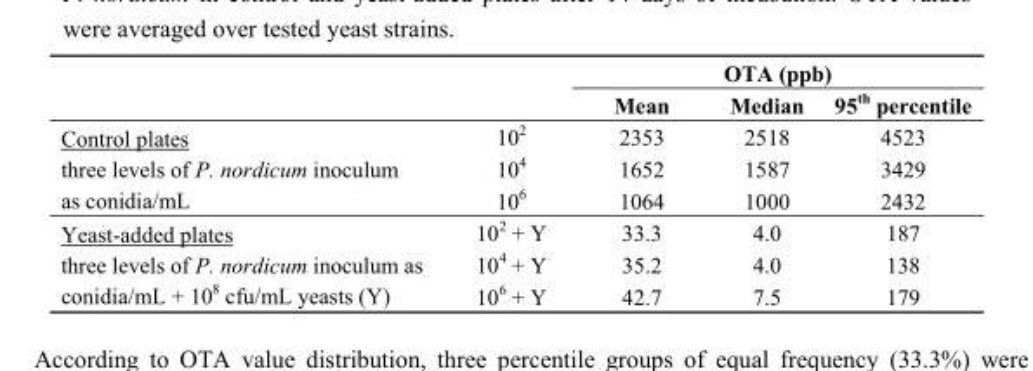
<table><thead><tr><td rowspan="2"></td><td rowspan="2"></td><td colspan="3">OTA (ppb)</td></tr><tr><td>Mean</td><td>Median</td><td>95<sup>th</sup> percentile</td></tr></thead><tbody><tr><td rowspan="3">Control plates three levels of P. nordicum inoculum as conidia/mL</td><td>10<sup>2</sup></td><td>2353</td><td>2518</td><td>4523</td></tr><tr><td>10<sup>4</sup></td><td>1652</td><td>1587</td><td>3429</td></tr><tr><td>10<sup>6</sup></td><td>1064</td><td>1000</td><td>2432</td></tr><tr><td rowspan="3">Yeast-added plates three levels of P. nordicum inoculum as conidia/mL + 10<sup>8</sup> cfu/mL yeasts (Y)</td><td>10<sup>2</sup> + Y</td><td>33.3</td><td>4.0</td><td>187</td></tr><tr><td>10<sup>4</sup> + Y</td><td>35.2</td><td>4.0</td><td>138</td></tr><tr><td>10<sup>6</sup> + Y</td><td>42.7</td><td>7.5</td><td>179</td></tr></tbody></table>